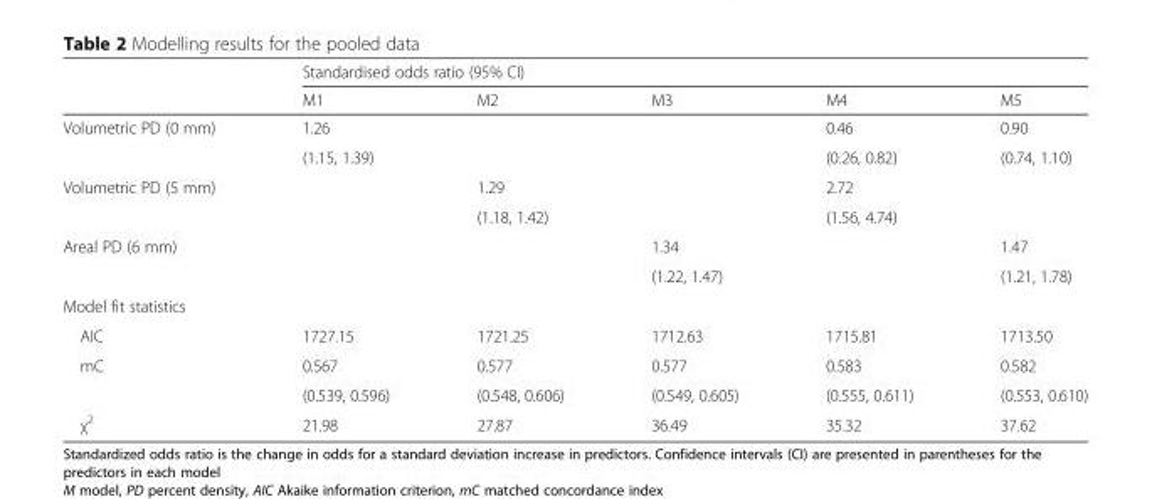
<table><thead><tr><td rowspan="2"></td><td colspan="5">Standardised odds ratio (95% CI)</td></tr><tr><td>M1</td><td>M2</td><td>M3</td><td>M4</td><td>M5</td></tr></thead><tbody><tr><td rowspan="2">Volumetric PD (0 mm)</td><td>1.26</td><td></td><td></td><td>0.46</td><td>0.90</td></tr><tr><td colspan="2">(1.15, 1.39)</td><td></td><td>(0.26, 0.82)</td><td>(0.74, 1.10)</td></tr><tr><td rowspan="2">Volumetric PD (5 mm)</td><td></td><td>1.29</td><td></td><td>2.72</td><td></td></tr><tr><td></td><td colspan="2">(1.18, 1.42)</td><td>(1.56, 4.74)</td><td></td></tr><tr><td rowspan="2">Areal PD (6 mm)</td><td></td><td></td><td>1.34</td><td></td><td>1.47</td></tr><tr><td></td><td></td><td colspan="2">(1.22, 1.47)</td><td>(1.21, 1.78)</td></tr><tr><td colspan="6">Model fit statistics</td></tr><tr><td>AIC</td><td>1727.15</td><td>1721.25</td><td>1712.63</td><td>1715.81</td><td>1713.50</td></tr><tr><td rowspan="2">mC</td><td>0.567</td><td>0.577</td><td>0.577</td><td>0.583</td><td>0.582</td></tr><tr><td>(0.539, 0.596)</td><td>(0.548, 0.606)</td><td>(0.549, 0.605)</td><td>(0.555, 0.611)</td><td>(0.553, 0.610)</td></tr><tr><td>χ<sup>2</sup></td><td>21.98</td><td>27.87</td><td>36.49</td><td>35.32</td><td>37.62</td></tr></tbody></table>